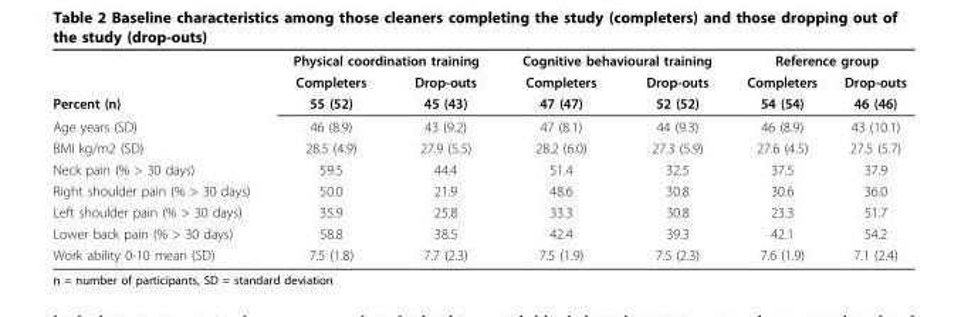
<table><thead><tr><td rowspan="2"></td><td colspan="2">Physical coordination training</td><td colspan="2">Cognitive behavioural training</td><td colspan="2">Reference group</td></tr><tr><td>Completers</td><td>Drop-outs</td><td>Completers</td><td>Drop-outs</td><td>Completers</td><td>Drop-outs</td></tr></thead><tbody><tr><td>Percent (n)</td><td>55 (52)</td><td>45 (43)</td><td>47 (47)</td><td>52 (52)</td><td>54 (54)</td><td>46 (46)</td></tr><tr><td>Age years (SD)</td><td>46 (8.9)</td><td>43 (9.2)</td><td>47 (8.1)</td><td>44 (9.3)</td><td>46 (8.9)</td><td>43 (10.1)</td></tr><tr><td>BMI kg/m2 (SD)</td><td>28.5 (4.9)</td><td>27.9 (5.5)</td><td>28.2 (6.0)</td><td>27.3 (5.9)</td><td>27.6 (4.5)</td><td>27.5 (5.7)</td></tr><tr><td>Neck pain (% &gt; 30 days)</td><td>59.5</td><td>44.4</td><td>51.4</td><td>32.5</td><td>37.5</td><td>37.9</td></tr><tr><td>Right shoulder pain (% &gt; 30 days)</td><td>50.0</td><td>21.9</td><td>48.6</td><td>30.8</td><td>30.6</td><td>36.0</td></tr><tr><td>Left shoulder pain (% &gt; 30 days)</td><td>35.9</td><td>25.8</td><td>33.3</td><td>30.8</td><td>23.3</td><td>51.7</td></tr><tr><td>Lower back pain (% &gt; 30 days)</td><td>58.8</td><td>38.5</td><td>42.4</td><td>39.3</td><td>42.1</td><td>54.2</td></tr><tr><td>Work ability 0-10 mean (SD)</td><td>7.5 (1.8)</td><td>7.7 (2.3)</td><td>7.5 (1.9)</td><td>7.5 (2.3)</td><td>7.6 (1.9)</td><td>7.1 (2.4)</td></tr></tbody></table>